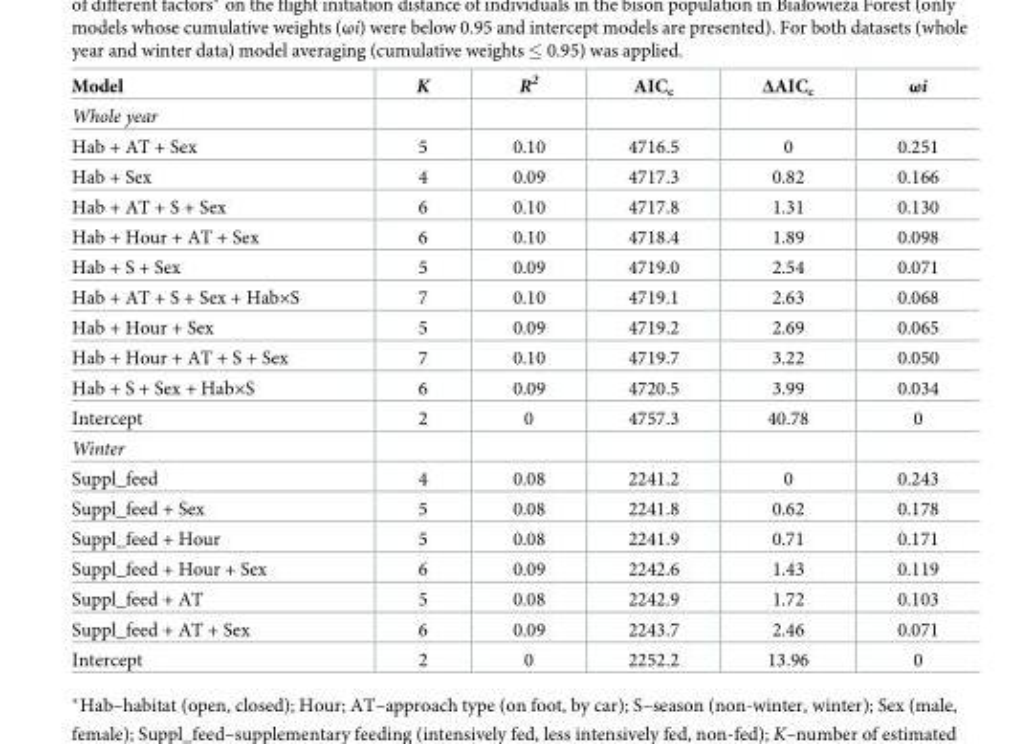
<table><thead><tr><td>Model</td><td>K</td><td>R<sup>2</sup></td><td>AIC<sub>c</sub></td><td>ΔAIC<sub>c</sub></td><td>ωi</td></tr></thead><tbody><tr><td colspan="6">Whole year</td></tr><tr><td>Hab + AT + Sex</td><td>5</td><td>0.10</td><td>4716.5</td><td>0</td><td>0.251</td></tr><tr><td>Hab + Sex</td><td>4</td><td>0.09</td><td>4717.3</td><td>0.82</td><td>0.166</td></tr><tr><td>Hab + AT + S + Sex</td><td>6</td><td>0.10</td><td>4717.8</td><td>1.31</td><td>0.130</td></tr><tr><td>Hab + Hour + AT + Sex</td><td>6</td><td>0.10</td><td>4718.4</td><td>1.89</td><td>0.098</td></tr><tr><td>Hab + S + Sex</td><td>5</td><td>0.09</td><td>4719.0</td><td>2.54</td><td>0.071</td></tr><tr><td>Hab + AT + S + Sex + Hab×S</td><td>7</td><td>0.10</td><td>4719.1</td><td>2.63</td><td>0.068</td></tr><tr><td>Hab + Hour + Sex</td><td>5</td><td>0.09</td><td>4719.2</td><td>2.69</td><td>0.065</td></tr><tr><td>Hab + Hour + AT + S + Sex</td><td>7</td><td>0.10</td><td>4719.7</td><td>3.22</td><td>0.050</td></tr><tr><td>Hab + S + Sex + Hab×S</td><td>6</td><td>0.09</td><td>4720.5</td><td>3.99</td><td>0.034</td></tr><tr><td>Intercept</td><td>2</td><td>0</td><td>4757.3</td><td>40.78</td><td>0</td></tr><tr><td colspan="6">Winter</td></tr><tr><td>Suppl_feed</td><td>4</td><td>0.08</td><td>2241.2</td><td>0</td><td>0.243</td></tr><tr><td>Suppl_feed + Sex</td><td>5</td><td>0.08</td><td>2241.8</td><td>0.62</td><td>0.178</td></tr><tr><td>Suppl_feed + Hour</td><td>5</td><td>0.08</td><td>2241.9</td><td>0.71</td><td>0.171</td></tr><tr><td>Suppl_feed + Hour + Sex</td><td>6</td><td>0.09</td><td>2242.6</td><td>1.43</td><td>0.119</td></tr><tr><td>Suppl_feed + AT</td><td>5</td><td>0.08</td><td>2242.9</td><td>1.72</td><td>0.103</td></tr><tr><td>Suppl_feed + AT + Sex</td><td>6</td><td>0.09</td><td>2243.7</td><td>2.46</td><td>0.071</td></tr><tr><td>Intercept</td><td>2</td><td>0</td><td>2252.2</td><td>13.96</td><td>0</td></tr></tbody></table>